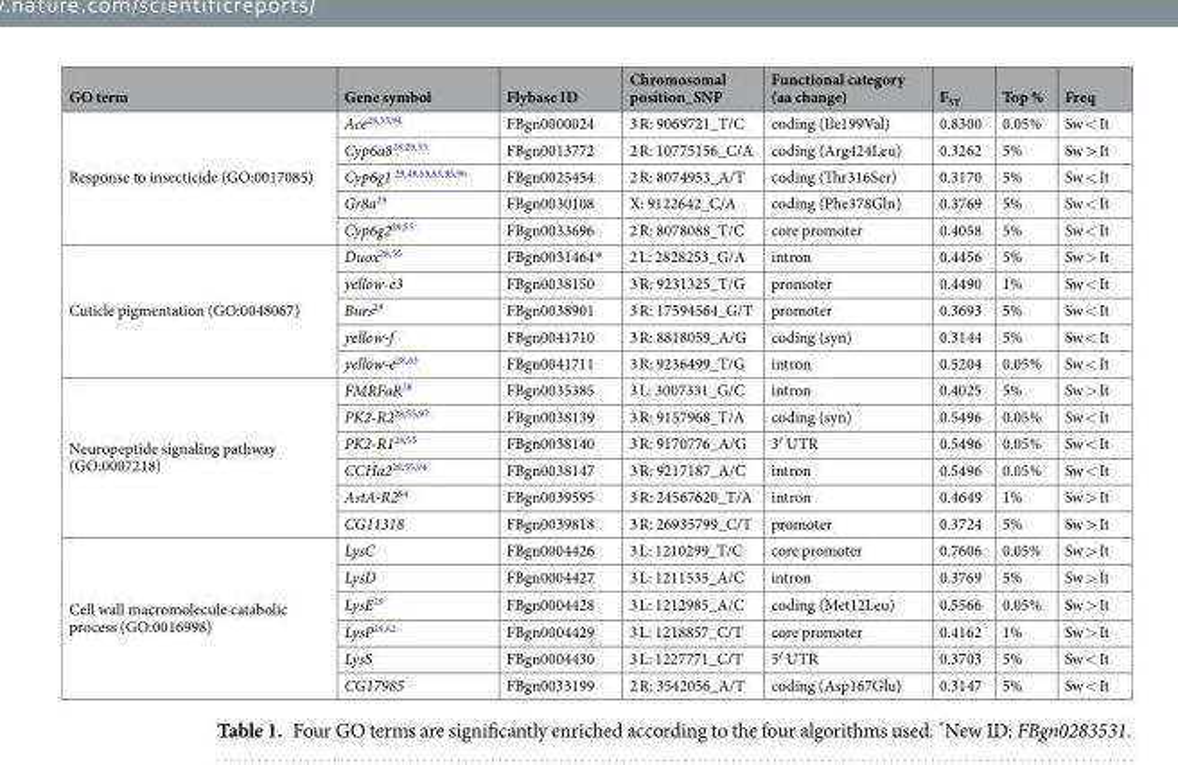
<table><thead><tr><td>GO term</td><td>Gene symbol</td><td>Flybase ID</td><td>Chromosomal position_SNP</td><td>Functional category (aa change)</td><td>F<sub>ST</sub></td><td>Top %</td><td>Freq</td></tr></thead><tbody><tr><td rowspan="5">Response to insecticide (GO:0017085)</td><td>Ace<sup>28,55,94</sup></td><td>FBgn0000024</td><td>3 R: 9069721_T/C</td><td>coding (Ile199Val)</td><td>0.8300</td><td>0.05%</td><td>Sw &lt; It</td></tr><tr><td>Cyp6a8<sup>28,29,55</sup></td><td>FBgn0013772</td><td>2 R: 10775156_C/A</td><td>coding (Arg424Leu)</td><td>0.3262</td><td>5%</td><td>Sw &gt; It</td></tr><tr><td>Cyp6g1 <sup>29,48,55,63,95,96</sup></td><td>FBgn0025454</td><td>2 R: 8074953_A/T</td><td>coding (Thr316Ser)</td><td>0.3170</td><td>5%</td><td>Sw &lt; It</td></tr><tr><td>Gr8a<sup>29</sup></td><td>FBgn0030108</td><td>X: 9122642_C/A</td><td>coding (Phe378Gln)</td><td>0.3769</td><td>5%</td><td>Sw &lt; It</td></tr><tr><td>Cyp6g2<sup>29,55</sup></td><td>FBgn0033696</td><td>2 R: 8078088_T/C</td><td>core promoter</td><td>0.4058</td><td>5%</td><td>Sw &lt; It</td></tr><tr><td rowspan="5">Cuticle pigmentation (GO:0048067)</td><td>Duox<sup>28,55</sup></td><td>FBgn0031464*</td><td>2 L: 2828253_G/A</td><td>intron</td><td>0.4456</td><td>5%</td><td>Sw &gt; It</td></tr><tr><td>yellow-e3</td><td>FBgn0038150</td><td>3 R: 9231325_T/G</td><td>promoter</td><td>0.4490</td><td>1%</td><td>Sw &lt; It</td></tr><tr><td>Burs<sup>29</sup></td><td>FBgn0038901</td><td>3 R: 17594564_G/T</td><td>promoter</td><td>0.3693</td><td>5%</td><td>Sw &lt; It</td></tr><tr><td>yellow-f</td><td>FBgn0041710</td><td>3 R: 8818059_A/G</td><td>coding (syn)</td><td>0.3144</td><td>5%</td><td>Sw &lt; It</td></tr><tr><td>yellow-e<sup>28,63</sup></td><td>FBgn0041711</td><td>3 R: 9236499_T/G</td><td>intron</td><td>0.5204</td><td>0.05%</td><td>Sw &lt; It</td></tr><tr><td rowspan="6">Neuropeptide signaling pathway (GO:0007218)</td><td>FMRFaR<sup>28</sup></td><td>FBgn0035385</td><td>3 L: 3007331_G/C</td><td>intron</td><td>0.4025</td><td>5%</td><td>Sw &gt; It</td></tr><tr><td>PK2-R2<sup>28,55,97</sup></td><td>FBgn0038139</td><td>3 R: 9157968_T/A</td><td>coding (syn)</td><td>0.5496</td><td>0.05%</td><td>Sw &lt; It</td></tr><tr><td>PK2-R1<sup>28,55</sup></td><td>FBgn0038140</td><td>3 R: 9170776_A/G</td><td>3′ UTR</td><td>0.5496</td><td>0.05%</td><td>Sw &lt; It</td></tr><tr><td>CCHa2<sup>28,55,94</sup></td><td>FBgn0038147</td><td>3 R: 9217187_A/C</td><td>intron</td><td>0.5496</td><td>0.05%</td><td>Sw &lt; It</td></tr><tr><td>AstA-R2<sup>94</sup></td><td>FBgn0039595</td><td>3 R: 24567620_T/A</td><td>intron</td><td>0.4649</td><td>1%</td><td>Sw &gt; It</td></tr><tr><td>CG11318</td><td>FBgn0039818</td><td>3 R: 26935799_C/T</td><td>promoter</td><td>0.3724</td><td>5%</td><td>Sw &gt; It</td></tr><tr><td rowspan="6">Cell wall macromolecule catabolic process (GO:0016998)</td><td>LysC</td><td>FBgn0004426</td><td>3 L: 1210299_T/C</td><td>core promoter</td><td>0.7606</td><td>0.05%</td><td>Sw &gt; It</td></tr><tr><td>LysD</td><td>FBgn0004427</td><td>3 L: 1211535_A/C</td><td>intron</td><td>0.3769</td><td>5%</td><td>Sw &gt; It</td></tr><tr><td>LysE<sup>29</sup></td><td>FBgn0004428</td><td>3 L: 1212985_A/C</td><td>coding (Met12Leu)</td><td>0.5566</td><td>0.05%</td><td>Sw &gt; It</td></tr><tr><td>LysP<sup>29,62</sup></td><td>FBgn0004429</td><td>3 L: 1218857_C/T</td><td>core promoter</td><td>0.4162</td><td>1%</td><td>Sw &gt; It</td></tr><tr><td>LysS</td><td>FBgn0004430</td><td>3 L: 1227771_C/T</td><td>5′ UTR</td><td>0.3703</td><td>5%</td><td>Sw &lt; It</td></tr><tr><td>CG17985</td><td>FBgn0033199</td><td>2 R: 3542056_A/T</td><td>coding (Asp167Glu)</td><td>0.3147</td><td>5%</td><td>Sw &lt; It</td></tr></tbody></table>